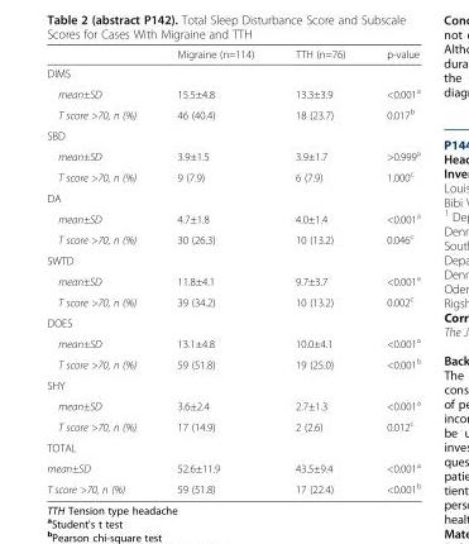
<table><thead><tr><td></td><td>Migraine (n=114)</td><td>TTH (n=76)</td><td>p-value</td></tr></thead><tbody><tr><td colspan="4">DIMS</td></tr><tr><td>mean±SD</td><td>15.5±4.8</td><td>13.3±3.9</td><td>&lt;0.001<sup>a</sup></td></tr><tr><td>T score &gt;70, n (%)</td><td>46 (40.4)</td><td>18 (23.7)</td><td>0.017<sup>b</sup></td></tr><tr><td colspan="4">SBD</td></tr><tr><td>mean±SD</td><td>3.9±1.5</td><td>3.9±1.7</td><td>&gt;0.999<sup>a</sup></td></tr><tr><td>T score &gt;70, n (%)</td><td>9 (7.9)</td><td>6 (7.9)</td><td>1.000<sup>c</sup></td></tr><tr><td colspan="4">DA</td></tr><tr><td>mean±SD</td><td>4.7±1.8</td><td>4.0±1.4</td><td>&lt;0.001<sup>a</sup></td></tr><tr><td>T score &gt;70, n (%)</td><td>30 (26.3)</td><td>10 (13.2)</td><td>0.046<sup>c</sup></td></tr><tr><td colspan="4">SWTD</td></tr><tr><td>mean±SD</td><td>11.8±4.1</td><td>9.7±3.7</td><td>&lt;0.001<sup>a</sup></td></tr><tr><td>T score &gt;70, n (%)</td><td>39 (34.2)</td><td>10 (13.2)</td><td>0.002<sup>c</sup></td></tr><tr><td colspan="4">DOES</td></tr><tr><td>mean±SD</td><td>13.1±4.8</td><td>10.0±4.1</td><td>&lt;0.001<sup>a</sup></td></tr><tr><td>T score &gt;70, n (%)</td><td>59 (51.8)</td><td>19 (25.0)</td><td>&lt;0.001<sup>b</sup></td></tr><tr><td colspan="4">SHY</td></tr><tr><td>mean±SD</td><td>3.6±2.4</td><td>2.7±1.3</td><td>&lt;0.001<sup>a</sup></td></tr><tr><td>T score &gt;70, n (%)</td><td>17 (14.9)</td><td>2 (2.6)</td><td>0.012<sup>c</sup></td></tr><tr><td colspan="4">TOTAL</td></tr><tr><td>mean±SD</td><td>52.6±11.9</td><td>43.5±9.4</td><td>&lt;0.001<sup>a</sup></td></tr><tr><td>T score &gt;70, n (%)</td><td>59 (51.8)</td><td>17 (22.4)</td><td>&lt;0.001<sup>b</sup></td></tr></tbody></table>